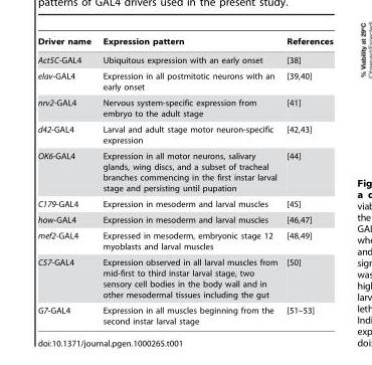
<table><thead><tr><td>Driver name</td><td>Expression pattern</td><td>References</td></tr></thead><tbody><tr><td>Act5C-GAL4</td><td>Ubiquitous expression with an early onset</td><td>[38]</td></tr><tr><td>elav-GAL4</td><td>Expression in all postmitotic neurons with an early onset</td><td>[39,40]</td></tr><tr><td>nrv2-GAL4</td><td>Nervous system-specific expression from embryo to the adult stage</td><td>[41]</td></tr><tr><td>d42-GAL4</td><td>Larval and adult stage motor neuron-specific expression</td><td>[42,43]</td></tr><tr><td>OK6-GAL4</td><td>Expression in all motor neurons, salivary glands, wing discs, and a subset of tracheal branches commencing in the first instar larval stage and persisting until pupation</td><td>[44]</td></tr><tr><td>C179-GAL4</td><td>Expression in mesoderm and larval muscles</td><td>[45]</td></tr><tr><td>how-GAL4</td><td>Expression in mesoderm and larval muscles</td><td>[46,47]</td></tr><tr><td>mef2-GAL4</td><td>Expressed in mesoderm, embryonic stage 12 myoblasts and larval muscles</td><td>[48,49]</td></tr><tr><td>C57-GAL4</td><td>Expression observed in all larval muscles from mid-first to third instar larval stage, two sensory cell bodies in the body wall and in other mesodermal tissues including the gut</td><td>[50]</td></tr><tr><td>G7-GAL4</td><td>Expression in all muscles beginning from the second instar larval stage</td><td>[51–53]</td></tr></tbody></table>